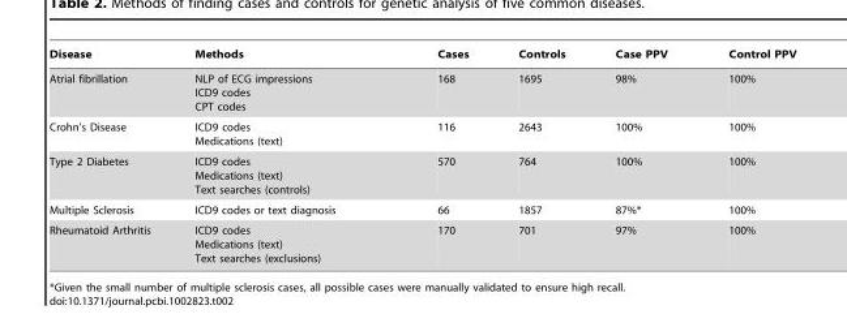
<table><thead><tr><td>Disease</td><td>Methods</td><td>Cases</td><td>Controls</td><td>Case PPV</td><td>Control PPV</td></tr></thead><tbody><tr><td>Atrial fibrillation</td><td>NLP of ECG impressions ICD9 codes CPT codes</td><td>168</td><td>1695</td><td>98%</td><td>100%</td></tr><tr><td>Crohn’s Disease</td><td>ICD9 codes Medications (text)</td><td>116</td><td>2643</td><td>100%</td><td>100%</td></tr><tr><td>Type 2 Diabetes</td><td>ICD9 codes Medications (text) Text searches (controls)</td><td>570</td><td>764</td><td>100%</td><td>100%</td></tr><tr><td>Multiple Sclerosis</td><td>ICD9 codes or text diagnosis</td><td>66</td><td>1857</td><td>87%*</td><td>100%</td></tr><tr><td>Rheumatoid Arthritis</td><td>ICD9 codes Medications (text) Text searches (exclusions)</td><td>170</td><td>701</td><td>97%</td><td>100%</td></tr></tbody></table>